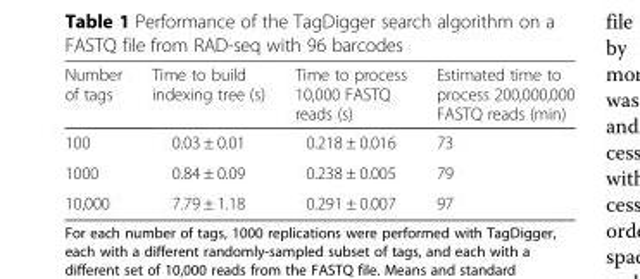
<table><thead><tr><td>Number of tags</td><td>Time to build indexing tree (s)</td><td>Time to process 10,000 FASTQ reads (s)</td><td>Estimated time to process 200,000,000 FASTQ reads (min)</td></tr></thead><tbody><tr><td>100</td><td>0.03 ± 0.01</td><td>0.218 ± 0.016</td><td>73</td></tr><tr><td>1000</td><td>0.84 ± 0.09</td><td>0.238 ± 0.005</td><td>79</td></tr><tr><td>10,000</td><td>7.79 ± 1.18</td><td>0.291 ± 0.007</td><td>97</td></tr></tbody></table>